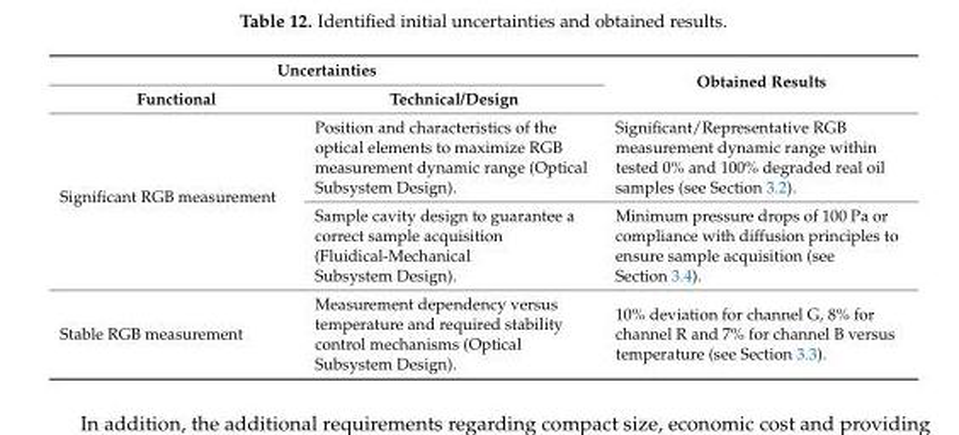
<table><thead><tr><td colspan="2">Uncertainties</td><td rowspan="2">Obtained Results</td></tr><tr><td>Functional</td><td>Technical/Design</td></tr></thead><tbody><tr><td rowspan="2">Significant RGB measurement</td><td>Position and characteristics of the optical elements to maximize RGB measurement dynamic range (Optical Subsystem Design).</td><td>Significant/Representative RGB measurement dynamic range within tested 0% and 100% degraded real oil samples (see Section 3.2).</td></tr><tr><td>Sample cavity design to guarantee a correct sample acquisition (Fluidical-Mechanical Subsystem Design).</td><td>Minimum pressure drops of 100 Pa or compliance with diffusion principles to ensure sample acquisition (see Section 3.4).</td></tr><tr><td>Stable RGB measurement</td><td>Measurement dependency versus temperature and required stability control mechanisms (Optical Subsystem Design).</td><td>10% deviation for channel G, 8% for channel R and 7% for channel B versus temperature (see Section 3.3).</td></tr></tbody></table>